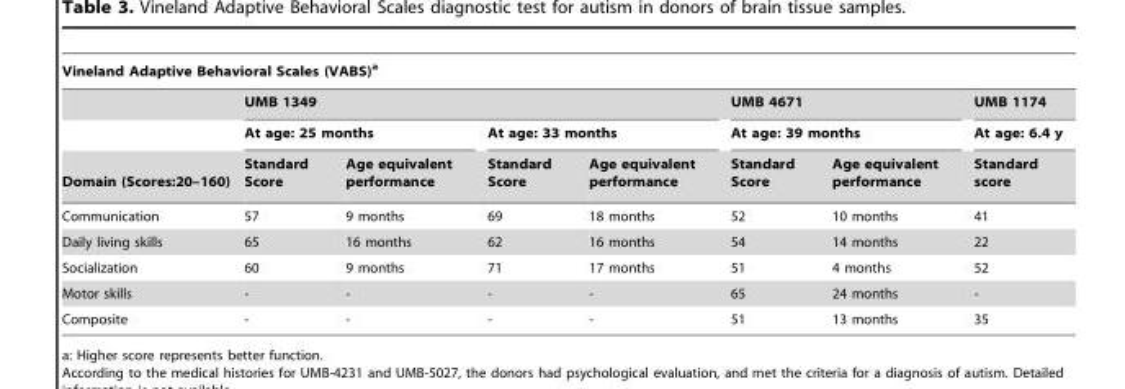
<table><thead><tr><td colspan="8">Vineland Adaptive Behavioral Scales (VABS)<sup>a</sup></td></tr><tr><td rowspan="3">Domain (Scores:20–160)</td><td colspan="4">UMB 1349</td><td rowspan="2" colspan="2">UMB 4671 At age: 39 months</td><td rowspan="3">UMB 1174 At age: 6.4 y Standard score</td></tr><tr><td colspan="2">At age: 25 months</td><td colspan="2">At age: 33 months</td></tr><tr><td>Standard Score</td><td>Age equivalent performance</td><td>Standard Score</td><td>Age equivalent performance</td><td>Standard Score</td><td>Age equivalent performance</td></tr></thead><tbody><tr><td>Communication</td><td>57</td><td>9 months</td><td>69</td><td>18 months</td><td>52</td><td>10 months</td><td>41</td></tr><tr><td>Daily living skills</td><td>65</td><td>16 months</td><td>62</td><td>16 months</td><td>54</td><td>14 months</td><td>22</td></tr><tr><td>Socialization</td><td>60</td><td>9 months</td><td>71</td><td>17 months</td><td>51</td><td>4 months</td><td>52</td></tr><tr><td>Motor skills</td><td>-</td><td>-</td><td>-</td><td>-</td><td>65</td><td>24 months</td><td>-</td></tr><tr><td>Composite</td><td>-</td><td>-</td><td>-</td><td>-</td><td>51</td><td>13 months</td><td>35</td></tr></tbody></table>